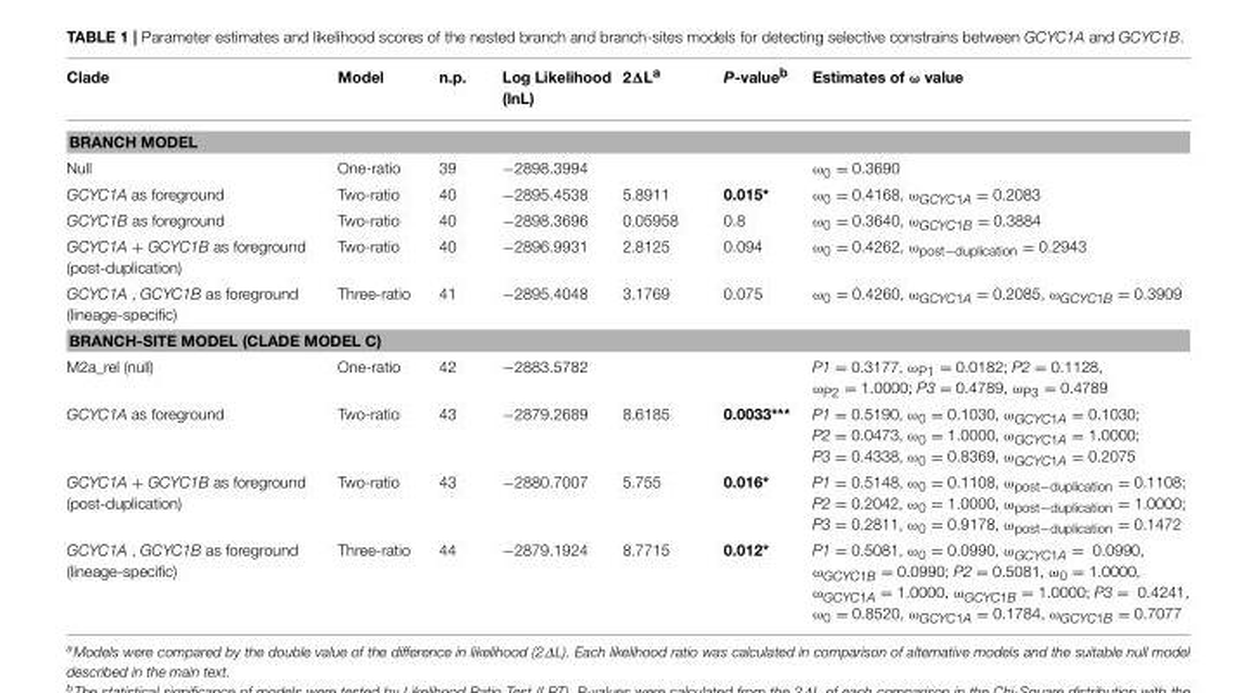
<table><thead><tr><td>Clade</td><td>Model</td><td>n.p.</td><td>Log Likelihood (lnL)</td><td>2ΔL<sup>a</sup></td><td>P-value<sup>b</sup></td><td>Estimates of ω value</td></tr></thead><tbody><tr><td colspan="7">BRANCH MODEL</td></tr><tr><td>Null</td><td>One-ratio</td><td>39</td><td>−2898.3994</td><td></td><td></td><td>ω<sub>0</sub> = 0.3690</td></tr><tr><td>GCYC1A as foreground</td><td>Two-ratio</td><td>40</td><td>−2895.4538</td><td>5.8911</td><td>0.015*</td><td>ω0 = 0.4168, ωGCYC1A = 0.2083</td></tr><tr><td>GCYC1B as foreground</td><td>Two-ratio</td><td>40</td><td>−2898.3696</td><td>0.05958</td><td>0.8</td><td>ω0 = 0.3640, ωGCYC1B = 0.3884</td></tr><tr><td>GCYC1A + GCYC1B as foreground (post-duplication)</td><td>Two-ratio</td><td>40</td><td>−2896.9931</td><td>2.8125</td><td>0.094</td><td>ω<sub>0</sub> = 0.4262, ω<sub>post−duplication</sub> = 0.2943</td></tr><tr><td>GCYC1A , GCYC1B as foreground (lineage-specific)</td><td>Three-ratio</td><td>41</td><td>−2895.4048</td><td>3.1769</td><td>0.075</td><td>ω0 = 0.4260, ωGCYC1A = 0.2085, ωGCYC1B = 0.3909</td></tr><tr><td colspan="7">BRANCH-SITE MODEL (CLADE MODEL C)</td></tr><tr><td>M2a_rel (null)</td><td>One-ratio</td><td>42</td><td>−2883.5782</td><td></td><td></td><td>P1 = 0.3177, ω<sub>P1</sub> = 0.0182; P2 = 0.1128, ω<sub>P2</sub> = 1.0000; P3 = 0.4789, ω<sub>P3</sub> = 0.4789</td></tr><tr><td>GCYC1A as foreground</td><td>Two-ratio</td><td>43</td><td>−2879.2689</td><td>8.6185</td><td>0.0033***</td><td>P1 = 0.5190, ω0 = 0.1030, ωGCYC1A = 0.1030; P2 = 0.0473, ω0 = 1.0000, ωGCYC1A = 1.0000; P3 = 0.4338, ω0 = 0.8369, ωGCYC1A = 0.2075</td></tr><tr><td>GCYC1A + GCYC1B as foreground (post-duplication)</td><td>Two-ratio</td><td>43</td><td>−2880.7007</td><td>5.755</td><td>0.016*</td><td>P1 = 0.5148, ω<sub>0</sub> = 0.1108, ω<sub>post−duplication</sub> = 0.1108; P2 = 0.2042, ω<sub>0</sub> = 1.0000, ω<sub>post−duplication</sub> = 1.0000; P3 = 0.2811, ω<sub>0</sub> = 0.9178, ω<sub>post−duplication</sub> = 0.1472</td></tr><tr><td>GCYC1A , GCYC1B as foreground (lineage-specific)</td><td>Three-ratio</td><td>44</td><td>−2879.1924</td><td>8.7715</td><td>0.012*</td><td>P1 = 0.5081, ω0 = 0.0990, ωGCYC1A = 0.0990, ωGCYC1B = 0.0990; P2 = 0.5081, ω0 = 1.0000, ωGCYC1A = 1.0000, ωGCYC1B = 1.0000; P3 = 0.4241, ω0 = 0.8520, ωGCYC1A = 0.1784, ωGCYC1B = 0.7077</td></tr></tbody></table>